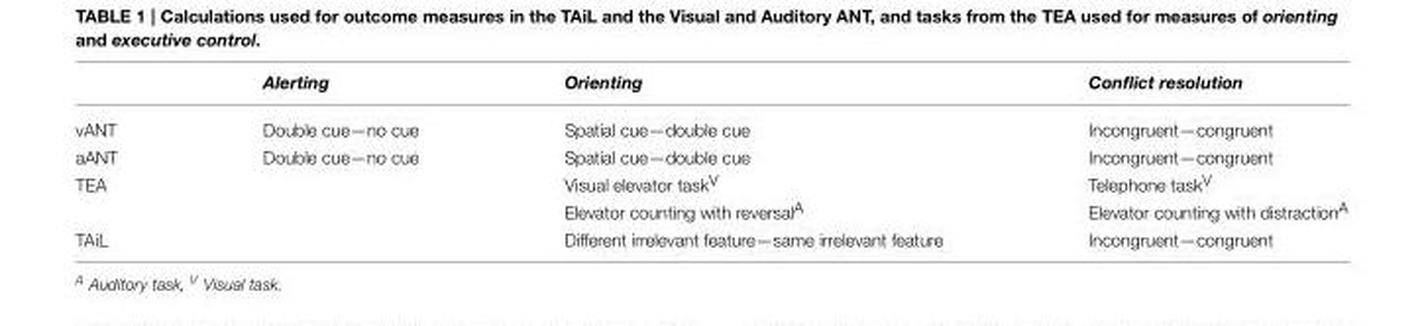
<table><thead><tr><td></td><td>Alerting</td><td>Orienting</td><td>Conflict resolution</td></tr></thead><tbody><tr><td>vANT</td><td>Double cue—no cue</td><td>Spatial cue—double cue</td><td>Incongruent—congruent</td></tr><tr><td>aANT</td><td>Double cue—no cue</td><td>Spatial cue—double cue</td><td>Incongruent—congruent</td></tr><tr><td rowspan="2">TEA</td><td></td><td>Visual elevator task<sup>V</sup></td><td>Telephone task<sup>V</sup></td></tr><tr><td></td><td>Elevator counting with reversal<sup>A</sup></td><td>Elevator counting with distraction<sup>A</sup></td></tr><tr><td>TAiL</td><td></td><td>Different irrelevant feature—same irrelevant feature</td><td>Incongruent—congruent</td></tr></tbody></table>